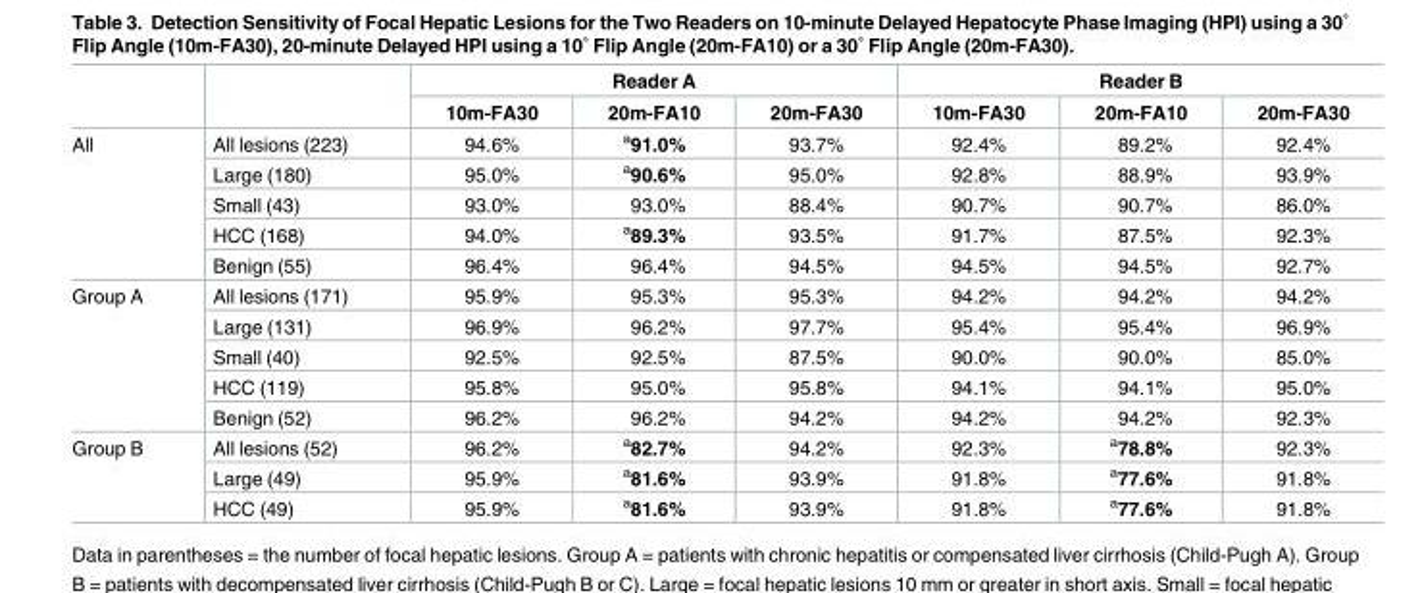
<table><thead><tr><td rowspan="2"></td><td rowspan="2"></td><td colspan="3">Reader A</td><td colspan="3">Reader B</td></tr><tr><td>10m-FA30</td><td>20m-FA10</td><td>20m-FA30</td><td>10m-FA30</td><td>20m-FA10</td><td>20m-FA30</td></tr></thead><tbody><tr><td rowspan="5">All</td><td>All lesions (223)</td><td>94.6%</td><td><sup>a</sup>91.0%</td><td>93.7%</td><td>92.4%</td><td>89.2%</td><td>92.4%</td></tr><tr><td>Large (180)</td><td>95.0%</td><td><sup>a</sup>90.6%</td><td>95.0%</td><td>92.8%</td><td>88.9%</td><td>93.9%</td></tr><tr><td>Small (43)</td><td>93.0%</td><td>93.0%</td><td>88.4%</td><td>90.7%</td><td>90.7%</td><td>86.0%</td></tr><tr><td>HCC (168)</td><td>94.0%</td><td><sup>a</sup>89.3%</td><td>93.5%</td><td>91.7%</td><td>87.5%</td><td>92.3%</td></tr><tr><td>Benign (55)</td><td>96.4%</td><td>96.4%</td><td>94.5%</td><td>94.5%</td><td>94.5%</td><td>92.7%</td></tr><tr><td rowspan="5">Group A</td><td>All lesions (171)</td><td>95.9%</td><td>95.3%</td><td>95.3%</td><td>94.2%</td><td>94.2%</td><td>94.2%</td></tr><tr><td>Large (131)</td><td>96.9%</td><td>96.2%</td><td>97.7%</td><td>95.4%</td><td>95.4%</td><td>96.9%</td></tr><tr><td>Small (40)</td><td>92.5%</td><td>92.5%</td><td>87.5%</td><td>90.0%</td><td>90.0%</td><td>85.0%</td></tr><tr><td>HCC (119)</td><td>95.8%</td><td>95.0%</td><td>95.8%</td><td>94.1%</td><td>94.1%</td><td>95.0%</td></tr><tr><td>Benign (52)</td><td>96.2%</td><td>96.2%</td><td>94.2%</td><td>94.2%</td><td>94.2%</td><td>92.3%</td></tr><tr><td rowspan="3">Group B</td><td>All lesions (52)</td><td>96.2%</td><td><sup>a</sup>82.7%</td><td>94.2%</td><td>92.3%</td><td><sup>a</sup>78.8%</td><td>92.3%</td></tr><tr><td>Large (49)</td><td>95.9%</td><td><sup>a</sup>81.6%</td><td>93.9%</td><td>91.8%</td><td><sup>a</sup>77.6%</td><td>91.8%</td></tr><tr><td>HCC (49)</td><td>95.9%</td><td><sup>a</sup>81.6%</td><td>93.9%</td><td>91.8%</td><td><sup>a</sup>77.6%</td><td>91.8%</td></tr></tbody></table>